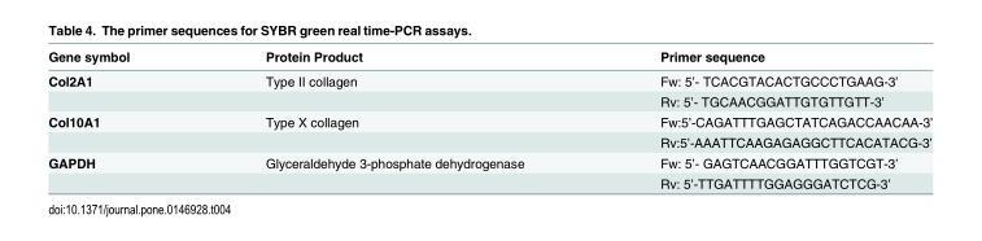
<table><thead><tr><td>Gene symbol</td><td>Protein Product</td><td>Primer sequence</td></tr></thead><tbody><tr><td rowspan="2">Col2A1</td><td>Type II collagen</td><td>Fw: 5’- TCACGTACACTGCCCTGAAG-3’</td></tr><tr><td></td><td>Rv: 5’- TGCAACGGATTGTGTTGTT-3’</td></tr><tr><td rowspan="2">Col10A1</td><td>Type X collagen</td><td>Fw:5’-CAGATTTGAGCTATCAGACCAACAA-3’</td></tr><tr><td></td><td>Rv:5’-AAATTCAAGAGAGGCTTCACATACG-3’</td></tr><tr><td rowspan="2">GAPDH</td><td>Glyceraldehyde 3-phosphate dehydrogenase</td><td>Fw: 5’- GAGTCAACGGATTTGGTCGT-3’</td></tr><tr><td></td><td>Rv: 5’-TTGATTTTGGAGGGATCTCG-3’</td></tr></tbody></table>